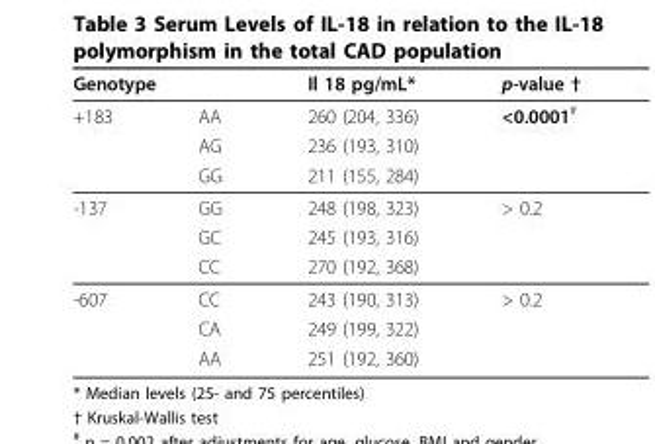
<table><thead><tr><td colspan="2">Genotype</td><td rowspan="2">Il 18 pg/mL* 260 (204, 336)</td><td rowspan="2">p-value † &lt;0.0001#</td></tr><tr><td>+183</td><td>AA</td></tr></thead><tbody><tr><td></td><td>AG</td><td>236 (193, 310)</td><td></td></tr><tr><td></td><td>GG</td><td>211 (155, 284)</td><td></td></tr><tr><td rowspan="3">-137</td><td>GG</td><td>248 (198, 323)</td><td>&gt; 0.2</td></tr><tr><td>GC</td><td>245 (193, 316)</td><td></td></tr><tr><td>CC</td><td>270 (192, 368)</td><td></td></tr><tr><td rowspan="3">-607</td><td>CC</td><td>243 (190, 313)</td><td>&gt; 0.2</td></tr><tr><td>CA</td><td>249 (199, 322)</td><td></td></tr><tr><td>AA</td><td>251 (192, 360)</td><td></td></tr></tbody></table>